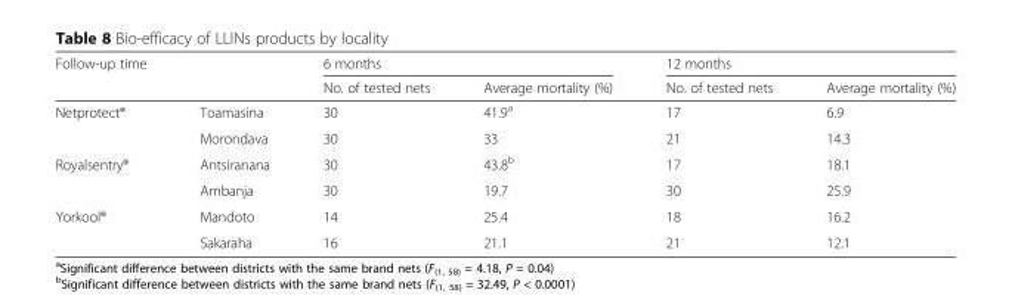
<table><thead><tr><td rowspan="2">Follow-up time</td><td rowspan="2"></td><td colspan="2">6 months</td><td colspan="2">12 months</td></tr><tr><td>No. of tested nets</td><td>Average mortality (%)</td><td>No. of tested nets</td><td>Average mortality (%)</td></tr></thead><tbody><tr><td rowspan="2">Netprotect®</td><td>Toamasina</td><td>30</td><td>41.9<sup>a</sup></td><td>17</td><td>6.9</td></tr><tr><td>Morondava</td><td>30</td><td>33</td><td>21</td><td>14.3</td></tr><tr><td rowspan="2">Royalsentry®</td><td>Antsiranana</td><td>30</td><td>43.8<sup>b</sup></td><td>17</td><td>18.1</td></tr><tr><td>Ambanja</td><td>30</td><td>19.7</td><td>30</td><td>25.9</td></tr><tr><td rowspan="2">Yorkool®</td><td>Mandoto</td><td>14</td><td>25.4</td><td>18</td><td>16.2</td></tr><tr><td>Sakaraha</td><td>16</td><td>21.1</td><td>21</td><td>12.1</td></tr></tbody></table>